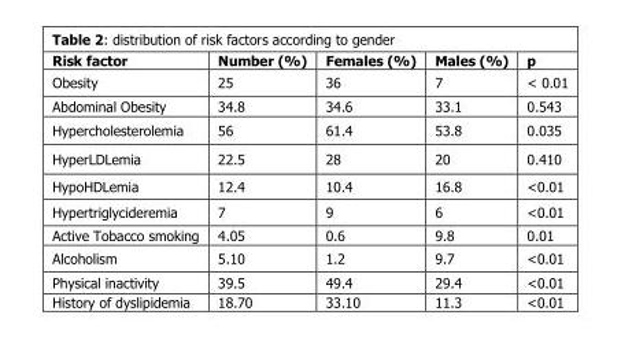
<table><thead><tr><td>Risk factor</td><td>Number (%)</td><td>Females (%)</td><td>Males (%)</td><td>p</td></tr></thead><tbody><tr><td>Obesity</td><td>25</td><td>36</td><td>7</td><td>&lt; 0.01</td></tr><tr><td>Abdominal Obesity</td><td>34.8</td><td>34.6</td><td>33.1</td><td>0.543</td></tr><tr><td>Hypercholesterolemia</td><td>56</td><td>61.4</td><td>53.8</td><td>0.035</td></tr><tr><td>HyperLDLemia</td><td>22.5</td><td>28</td><td>20</td><td>0.410</td></tr><tr><td>HypoHDLemia</td><td>12.4</td><td>10.4</td><td>16.8</td><td>&lt;0.01</td></tr><tr><td>Hypertriglycideremia</td><td>7</td><td>9</td><td>6</td><td>&lt;0.01</td></tr><tr><td>Active Tobacco smoking</td><td>4.05</td><td>0.6</td><td>9.8</td><td>0.01</td></tr><tr><td>Alcoholism</td><td>5.10</td><td>1.2</td><td>9.7</td><td>&lt;0.01</td></tr><tr><td>Physical inactivity</td><td>39.5</td><td>49.4</td><td>29.4</td><td>&lt;0.01</td></tr><tr><td>History of dyslipidemia</td><td>18.70</td><td>33.10</td><td>11.3</td><td>&lt;0.01</td></tr></tbody></table>